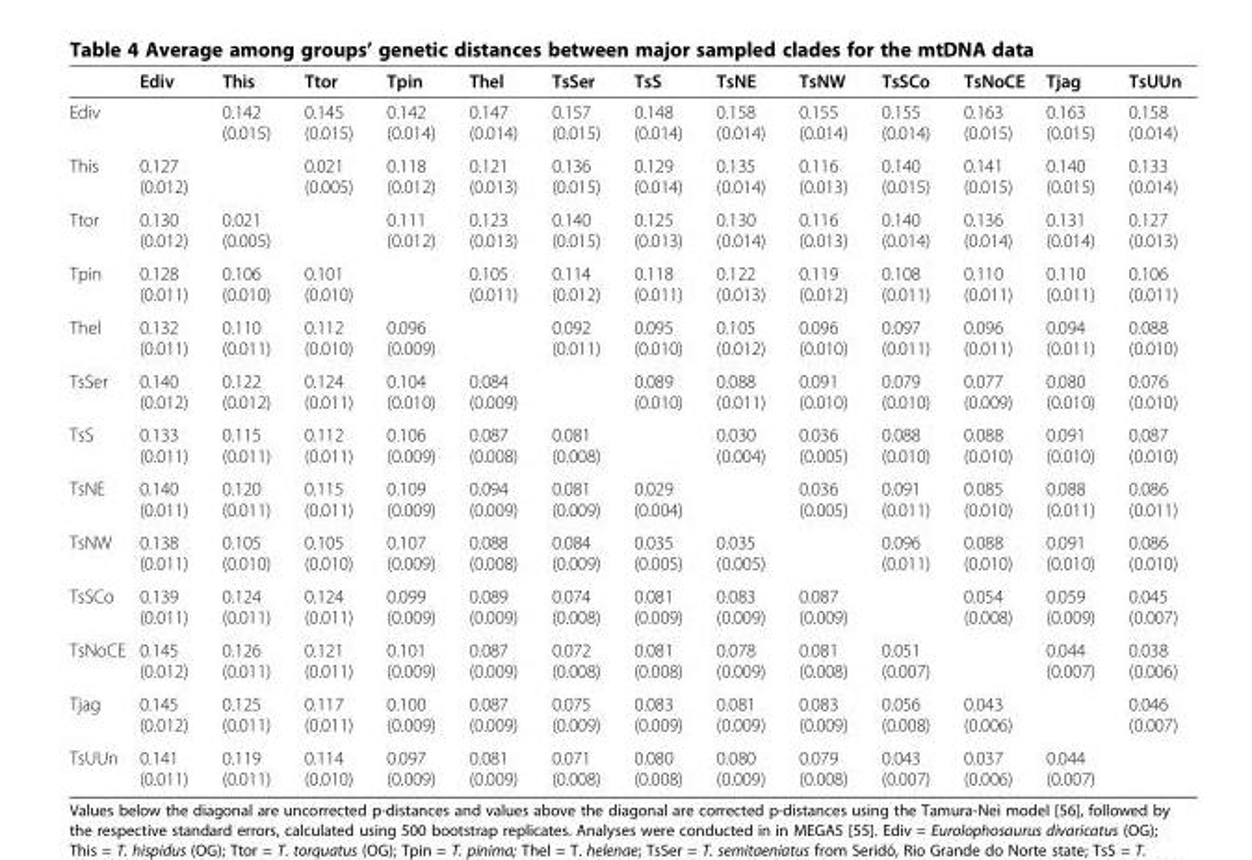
<table><thead><tr><td></td><td>Ediv</td><td>This</td><td>Ttor</td><td>Tpin</td><td>Thel</td><td>TsSer</td><td>TsS</td><td>TsNE</td><td>TsNW</td><td>TsSCo</td><td>TsNoCE</td><td>Tjag</td><td>TsUUn</td></tr></thead><tbody><tr><td>Ediv</td><td></td><td>0.142 (0.015)</td><td>0.145 (0.015)</td><td>0.142 (0.014)</td><td>0.147 (0.014)</td><td>0.157 (0.015)</td><td>0.148 (0.014)</td><td>0.158 (0.014)</td><td>0.155 (0.014)</td><td>0.155 (0.014)</td><td>0.163 (0.015)</td><td>0.163 (0.015)</td><td>0.158 (0.014)</td></tr><tr><td>This</td><td>0.127 (0.012)</td><td></td><td>0.021 (0.005)</td><td>0.118 (0.012)</td><td>0.121 (0.013)</td><td>0.136 (0.015)</td><td>0.129 (0.014)</td><td>0.135 (0.014)</td><td>0.116 (0.013)</td><td>0.140 (0.015)</td><td>0.141 (0.015)</td><td>0.140 (0.015)</td><td>0.133 (0.014)</td></tr><tr><td>Ttor</td><td>0.130 (0.012)</td><td>0.021 (0.005)</td><td></td><td>0.111 (0.012)</td><td>0.123 (0.013)</td><td>0.140 (0.015)</td><td>0.125 (0.013)</td><td>0.130 (0.014)</td><td>0.116 (0.013)</td><td>0.140 (0.014)</td><td>0.136 (0.014)</td><td>0.131 (0.014)</td><td>0.127 (0.013)</td></tr><tr><td>Tpin</td><td>0.128 (0.011)</td><td>0.106 (0.010)</td><td>0.101 (0.010)</td><td></td><td>0.105 (0.011)</td><td>0.114 (0.012)</td><td>0.118 (0.011)</td><td>0.122 (0.013)</td><td>0.119 (0.012)</td><td>0.108 (0.011)</td><td>0.110 (0.011)</td><td>0.110 (0.011)</td><td>0.106 (0.011)</td></tr><tr><td>Thel</td><td>0.132 (0.011)</td><td>0.110 (0.011)</td><td>0.112 (0.010)</td><td>0.096 (0.009)</td><td></td><td>0.092 (0.011)</td><td>0.095 (0.010)</td><td>0.105 (0.012)</td><td>0.096 (0.010)</td><td>0.097 (0.011)</td><td>0.096 (0.011)</td><td>0.094 (0.011)</td><td>0.088 (0.010)</td></tr><tr><td>TsSer</td><td>0.140 (0.012)</td><td>0.122 (0.012)</td><td>0.124 (0.011)</td><td>0.104 (0.010)</td><td>0.084 (0.009)</td><td></td><td>0.089 (0.010)</td><td>0.088 (0.011)</td><td>0.091 (0.010)</td><td>0.079 (0.010)</td><td>0.077 (0.009)</td><td>0.080 (0.010)</td><td>0.076 (0.010)</td></tr><tr><td>TsS</td><td>0.133 (0.011)</td><td>0.115 (0.011)</td><td>0.112 (0.011)</td><td>0.106 (0.009)</td><td>0.087 (0.008)</td><td>0.081 (0.008)</td><td></td><td>0.030 (0.004)</td><td>0.036 (0.005)</td><td>0.088 (0.010)</td><td>0.088 (0.010)</td><td>0.091 (0.010)</td><td>0.087 (0.010)</td></tr><tr><td>TsNE</td><td>0.140 (0.011)</td><td>0.120 (0.011)</td><td>0.115 (0.011)</td><td>0.109 (0.009)</td><td>0.094 (0.009)</td><td>0.081 (0.009)</td><td>0.029 (0.004)</td><td></td><td>0.036 (0.005)</td><td>0.091 (0.011)</td><td>0.085 (0.010)</td><td>0.088 (0.011)</td><td>0.086 (0.011)</td></tr><tr><td>TsNW</td><td>0.138 (0.011)</td><td>0.105 (0.010)</td><td>0.105 (0.010)</td><td>0.107 (0.009)</td><td>0.088 (0.008)</td><td>0.084 (0.009)</td><td>0.035 (0.005)</td><td>0.035 (0.005)</td><td></td><td>0.096 (0.011)</td><td>0.088 (0.010)</td><td>0.091 (0.010)</td><td>0.086 (0.010)</td></tr><tr><td>TsSCo</td><td>0.139 (0.011)</td><td>0.124 (0.011)</td><td>0.124 (0.011)</td><td>0.099 (0.009)</td><td>0.089 (0.009)</td><td>0.074 (0.008)</td><td>0.081 (0.009)</td><td>0.083 (0.009)</td><td>0.087 (0.009)</td><td></td><td>0.054 (0.008)</td><td>0.059 (0.009)</td><td>0.045 (0.007)</td></tr><tr><td>TsNoCE</td><td>0.145 (0.012)</td><td>0.126 (0.011)</td><td>0.121 (0.011)</td><td>0.101 (0.009)</td><td>0.087 (0.009)</td><td>0.072 (0.008)</td><td>0.081 (0.008)</td><td>0.078 (0.009)</td><td>0.081 (0.008)</td><td>0.051 (0.007)</td><td></td><td>0.044 (0.007)</td><td>0.038 (0.006)</td></tr><tr><td>Tjag</td><td>0.145 (0.012)</td><td>0.125 (0.011)</td><td>0.117 (0.011)</td><td>0.100 (0.009)</td><td>0.087 (0.009)</td><td>0.075 (0.009)</td><td>0.083 (0.009)</td><td>0.081 (0.009)</td><td>0.083 (0.009)</td><td>0.056 (0.008)</td><td>0.043 (0.006)</td><td></td><td>0.046 (0.007)</td></tr><tr><td>TsUUn</td><td>0.141 (0.011)</td><td>0.119 (0.011)</td><td>0.114 (0.010)</td><td>0.097 (0.009)</td><td>0.081 (0.009)</td><td>0.071 (0.008)</td><td>0.080 (0.008)</td><td>0.080 (0.009)</td><td>0.079 (0.008)</td><td>0.043 (0.007)</td><td>0.037 (0.006)</td><td>0.044 (0.007)</td><td></td></tr></tbody></table>